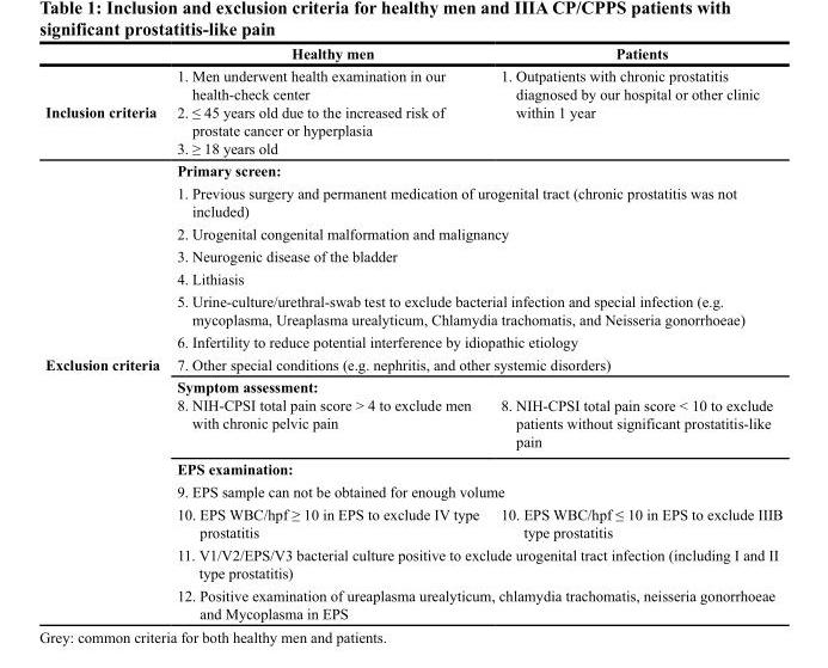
<table><thead><tr><td></td><td>Healthy men</td><td>Patients</td></tr></thead><tbody><tr><td rowspan="2">Inclusion criteria</td><td>1. Men underwent health examination in our health-check center 2. ≤ 45 years old due to the increased risk of prostate cancer or hyperplasia 3. ≥ 18 years old</td><td>1. Outpatients with chronic prostatitis diagnosed by our hospital or other clinic within 1 year</td></tr><tr><td colspan="2">Primary screen:</td></tr><tr><td rowspan="13">Exclusion criteria</td><td colspan="2">1. Previous surgery and permanent medication of urogenital tract (chronic prostatitis was not included)</td></tr><tr><td colspan="2">2. Urogenital congenital malformation and malignancy</td></tr><tr><td colspan="2">3. Neurogenic disease of the bladder</td></tr><tr><td colspan="2">4. Lithiasis</td></tr><tr><td colspan="2">5. Urine-culture/urethral-swab test to exclude bacterial infection and special infection (e.g. mycoplasma, Ureaplasma urealyticum, Chlamydia trachomatis, and Neisseria gonorrhoeae)</td></tr><tr><td colspan="2">6. Infertility to reduce potential interference by idiopathic etiology</td></tr><tr><td colspan="2">7. Other special conditions (e.g. nephritis, and other systemic disorders)</td></tr><tr><td>Symptom assessment: 8. NIH-CPSI total pain score &gt; 4 to exclude men with chronic pelvic pain</td><td>8. NIH-CPSI total pain score &lt; 10 to exclude patients without significant prostatitis-like pain</td></tr><tr><td>EPS examination:</td><td></td></tr><tr><td colspan="2">9. EPS sample can not be obtained for enough volume</td></tr><tr><td>10. EPS WBC/hpf ≥ 10 in EPS to exclude IV type prostatitis</td><td>10. EPS WBC/hpf ≤ 10 in EPS to exclude IIIB type prostatitis</td></tr><tr><td colspan="2">11. V1/V2/EPS/V3 bacterial culture positive to exclude urogenital tract infection (including I and II type prostatitis)</td></tr><tr><td colspan="2">12. Positive examination of ureaplasma urealyticum, chlamydia trachomatis, neisseria gonorrhoeae and Mycoplasma in EPS</td></tr></tbody></table>